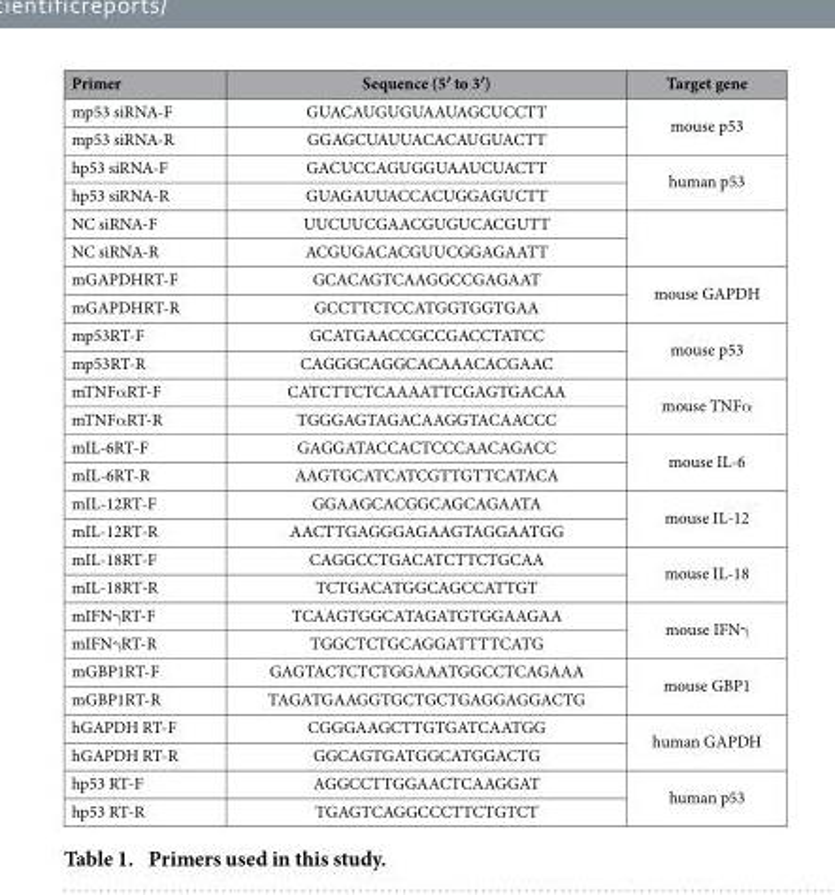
<table><thead><tr><td>Primer</td><td>Sequence (5′ to 3′)</td><td>Target gene</td></tr></thead><tbody><tr><td>mp53 siRNA-F</td><td>GUACAUGUGUAAUAGCUCCTT</td><td rowspan="2">mouse p53</td></tr><tr><td>mp53 siRNA-R</td><td>GGAGCUAUUACACAUGUACTT</td></tr><tr><td>hp53 siRNA-F</td><td>GACUCCAGUGGUAAUCUACTT</td><td rowspan="2">human p53</td></tr><tr><td>hp53 siRNA-R</td><td>GUAGAUUACCACUGGAGUCTT</td></tr><tr><td>NC siRNA-F</td><td>UUCUUCGAACGUGUCACGUTT</td><td rowspan="2"></td></tr><tr><td>NC siRNA-R</td><td>ACGUGACACGUUCGGAGAATT</td></tr><tr><td>mGAPDHRT-F</td><td>GCACAGTCAAGGCCGAGAAT</td><td rowspan="2">mouse GAPDH</td></tr><tr><td>mGAPDHRT-R</td><td>GCCTTCTCCATGGTGGTGAA</td></tr><tr><td>mp53RT-F</td><td>GCATGAACCGCCGACCTATCC</td><td rowspan="2">mouse p53</td></tr><tr><td>mp53RT-R</td><td>CAGGGCAGGCACAAACACGAAC</td></tr><tr><td>mTNFα RT-F</td><td>CATCTTCTCAAAATTCGAGTGACAA</td><td rowspan="2">mouse TNFα</td></tr><tr><td>mTNFα RT-R</td><td>TGGGAGTAGACAAGGTACAACCC</td></tr><tr><td>mIL-6RT-F</td><td>GAGGATACCACTCCCAACAGACC</td><td rowspan="2">mouse IL-6</td></tr><tr><td>mIL-6RT-R</td><td>AAGTGCATCATCGTTGTTCATACA</td></tr><tr><td>mIL-12RT-F</td><td>GGAAGCACGGCAGCAGAATA</td><td rowspan="2">mouse IL-12</td></tr><tr><td>mIL-12RT-R</td><td>AACTTGAGGGAGAAGTAGGAATGG</td></tr><tr><td>mIL-18RT-F</td><td>CAGGCCTGACATCTTCTGCAA</td><td rowspan="2">mouse IL-18</td></tr><tr><td>mIL-18RT-R</td><td>TCTGACATGGCAGCCATTGT</td></tr><tr><td>mIFNγ RT-F</td><td>TCAAGTGGCATAGATGTGGAAGAA</td><td rowspan="2">mouse IFNγ</td></tr><tr><td>mIFNγ RT-R</td><td>TGGCTCTGCAGGATTTTCATG</td></tr><tr><td>mGBP1RT-F</td><td>GAGTACTCTCTGGAAATGGCCTCAGAAA</td><td rowspan="2">mouse GBP1</td></tr><tr><td>mGBP1RT-R</td><td>TAGATGAAGGTGCTGCTGAGGAGGACTG</td></tr><tr><td>hGAPDH RT-F</td><td>CGGGAAGCTTGTGATCAATGG</td><td rowspan="2">human GAPDH</td></tr><tr><td>hGAPDH RT-R</td><td>GGCAGTGATGGCATGGACTG</td></tr><tr><td>hp53 RT-F</td><td>AGGCCTTGGAACTCAAGGAT</td><td rowspan="2">human p53</td></tr><tr><td>hp53 RT-R</td><td>TGAGTCAGGCCCTTCTGTCT</td></tr></tbody></table>